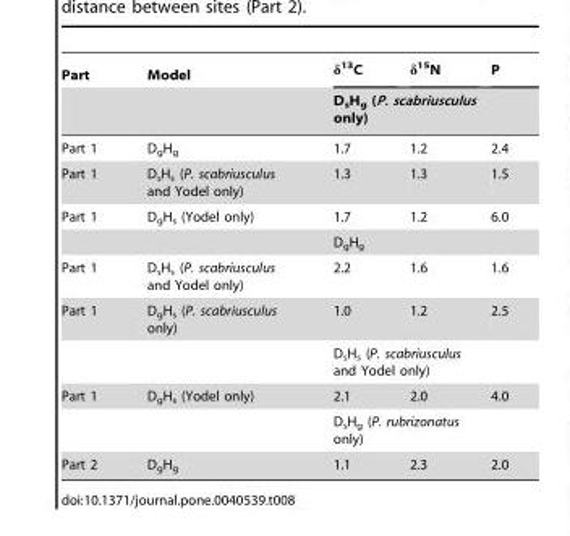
<table><thead><tr><td rowspan="2">Part</td><td rowspan="2">Model</td><td>δ<sup>13</sup>C</td><td>δ<sup>15</sup>N</td><td>P</td></tr><tr><td colspan="3">D<sub>s</sub>H<sub>g</sub> (P. scabriusculus only)</td></tr></thead><tbody><tr><td>Part 1</td><td>D<sub>g</sub>H<sub>g</sub></td><td>1.7</td><td>1.2</td><td>2.4</td></tr><tr><td>Part 1</td><td>D<sub>s</sub>H<sub>s</sub> (P. scabriusculus and Yodel only)</td><td>1.3</td><td>1.3</td><td>1.5</td></tr><tr><td rowspan="2">Part 1</td><td>D<sub>g</sub>H<sub>s</sub> (Yodel only)</td><td>1.7</td><td>1.2</td><td>6.0</td></tr><tr><td></td><td colspan="3">D<sub>g</sub>H<sub>g</sub></td></tr><tr><td>Part 1</td><td>D<sub>s</sub>H<sub>s</sub> (P. scabriusculus and Yodel only)</td><td>2.2</td><td>1.6</td><td>1.6</td></tr><tr><td rowspan="2">Part 1</td><td>D<sub>g</sub>H<sub>s</sub> (P. scabriusculus only)</td><td>1.0</td><td>1.2</td><td>2.5</td></tr><tr><td></td><td colspan="3">D<sub>s</sub>H<sub>s</sub> (P. scabriusculus and Yodel only)</td></tr><tr><td rowspan="2">Part 1</td><td>D<sub>g</sub>H<sub>s</sub> (Yodel only)</td><td>2.1</td><td>2.0</td><td>4.0</td></tr><tr><td></td><td colspan="3">D<sub>s</sub>H<sub>g</sub> (P. rubrizonatus only)</td></tr><tr><td>Part 2</td><td>D<sub>g</sub>H<sub>g</sub></td><td>1.1</td><td>2.3</td><td>2.0</td></tr></tbody></table>